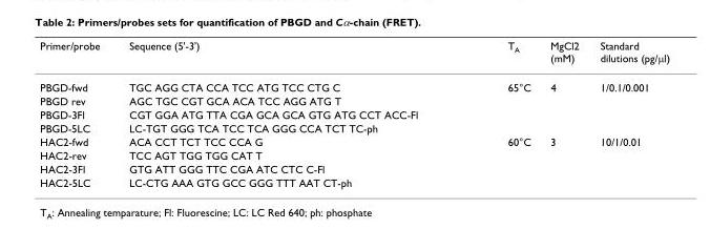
<table><thead><tr><td>Primer/probe</td><td>Sequence (5&#x27;-3&#x27;)</td><td>T<sub>A</sub></td><td>MgCl2 (mM)</td><td>Standard dilutions (pg/μl)</td></tr></thead><tbody><tr><td>PBGD-fwd</td><td>TGC AGG CTA CCA TCC ATG TCC CTG C</td><td>65°C</td><td>4</td><td>1/0.1/0.001</td></tr><tr><td>PBGD rev</td><td>AGC TGC CGT GCA ACA TCC AGG ATG T</td><td></td><td></td><td></td></tr><tr><td>PBGD-3Fl</td><td>CGT GGA ATG TTA CGA GCA GCA GTG ATG CCT ACC-Fl</td><td></td><td></td><td></td></tr><tr><td>PBGD-5LC</td><td>LC-TGT GGG TCA TCC TCA GGG CCA TCT TC-ph</td><td></td><td></td><td></td></tr><tr><td>HAC2-fwd</td><td>ACA CCT TCT TCC CCA G</td><td>60°C</td><td>3</td><td>10/1/0.01</td></tr><tr><td>HAC2-rev</td><td>TCC AGT TGG TGG CAT T</td><td></td><td></td><td></td></tr><tr><td>HAC2-3Fl</td><td>GTG ATT GGG TTC CGA ATC CTC C-Fl</td><td></td><td></td><td></td></tr><tr><td>HAC2-5LC</td><td>LC-CTG AAA GTG GCC GGG TTT AAT CT-ph</td><td></td><td></td><td></td></tr></tbody></table>